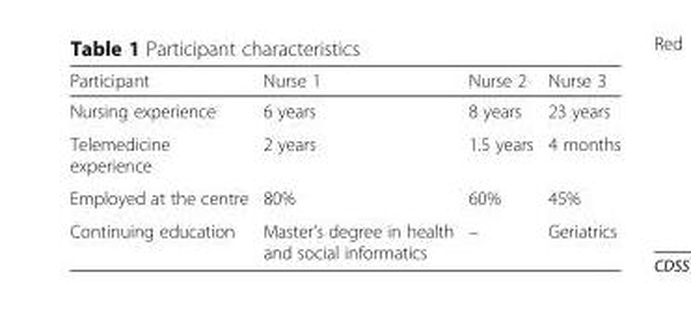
<table><thead><tr><td>Participant</td><td>Nurse 1</td><td>Nurse 2</td><td>Nurse 3</td></tr></thead><tbody><tr><td>Nursing experience</td><td>6 years</td><td>8 years</td><td>23 years</td></tr><tr><td>Telemedicine experience</td><td>2 years</td><td>1.5 years</td><td>4 months</td></tr><tr><td>Employed at the centre</td><td>80%</td><td>60%</td><td>45%</td></tr><tr><td>Continuing education</td><td>Master’s degree in health and social informatics</td><td>–</td><td>Geriatrics</td></tr></tbody></table>